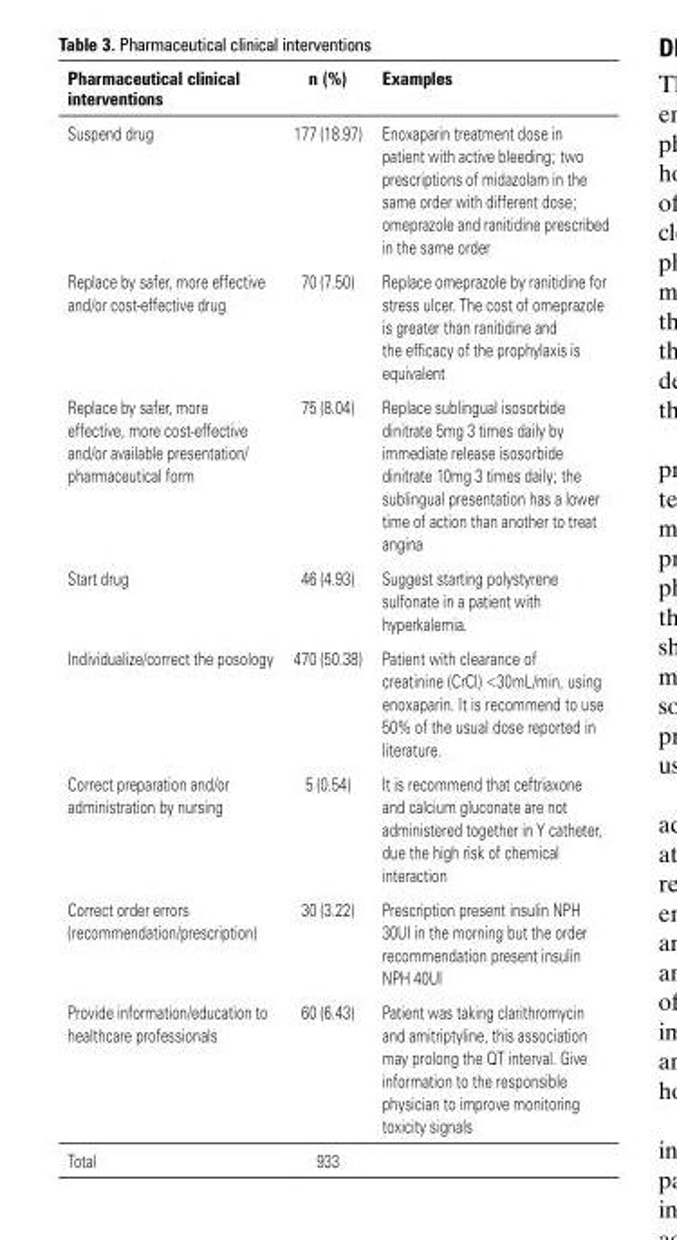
<table><thead><tr><td>Pharmaceutical clinical interventions</td><td>n (%)</td><td>Examples</td></tr></thead><tbody><tr><td>Suspend drug</td><td>177 (18.97)</td><td>Enoxaparin treatment dose in patient with active bleeding; two prescriptions of midazolam in the same order with different dose; omeprazole and ranitidine prescribed in the same order</td></tr><tr><td>Replace by safer, more effective and/or cost-effective drug</td><td>70 (7.50)</td><td>Replace omeprazole by ranitidine for stress ulcer. The cost of omeprazole is greater than ranitidine and the efficacy of the prophylaxis is equivalent</td></tr><tr><td>Replace by safer, more effective, more cost-effective and/or available presentation/ pharmaceutical form</td><td>75 (8.04)</td><td>Replace sublingual isosorbide dinitrate 5mg 3 times daily by immediate release isosorbide dinitrate 10mg 3 times daily; the sublingual presentation has a lower time of action than another to treat angina</td></tr><tr><td>Start drug</td><td>46 (4.93)</td><td>Suggest starting polystyrene sulfonate in a patient with hyperkalemia.</td></tr><tr><td>Individualize/correct the posology</td><td>470 (50.38)</td><td>Patient with clearance of creatinine (CrCl) &lt;30mL/min, using enoxaparin. It is recommend to use 50% of the usual dose reported in literature.</td></tr><tr><td>Correct preparation and/or administration by nursing</td><td>5 (0.54)</td><td>It is recommend that ceftriaxone and calcium gluconate are not administered together in Y catheter, due the high risk of chemical interaction</td></tr><tr><td>Correct order errors (recommendation/prescription)</td><td>30 (3.22)</td><td>Prescription present insulin NPH 30UI in the morning but the order recommendation present insulin NPH 40UI</td></tr><tr><td>Provide information/education to healthcare professionals</td><td>60 (6.43)</td><td>Patient was taking clarithromycin and amitriptyline, this association may prolong the QT interval. Give information to the responsible physician to improve monitoring toxicity signals</td></tr><tr><td>Total</td><td>933</td><td></td></tr></tbody></table>